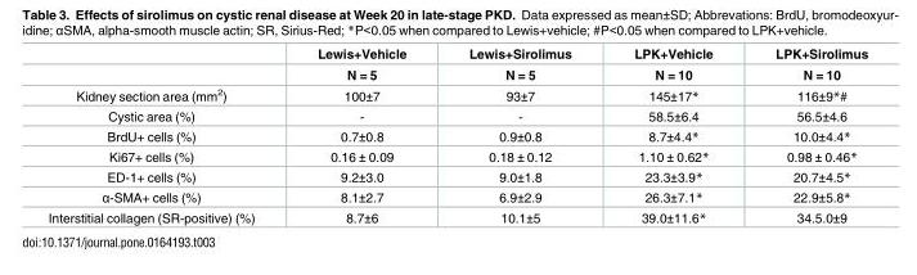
<table><thead><tr><td rowspan="2"></td><td rowspan="2">Lewis+Vehicle N = 5</td><td rowspan="2">Lewis+Sirolimus N = 5</td><td rowspan="2">LPK+Vehicle N = 10</td><td rowspan="2">LPK+Sirolimus N = 10</td></tr><tr></tr></thead><tbody><tr><td>Kidney section area (mm<sup>2</sup>)</td><td>100±7</td><td>93±7</td><td>145±17*</td><td>116±9*#</td></tr><tr><td>Cystic area (%)</td><td>-</td><td>-</td><td>58.5±6.4</td><td>56.5±4.6</td></tr><tr><td>BrdU+ cells (%)</td><td>0.7±0.8</td><td>0.9±0.8</td><td>8.7±4.4*</td><td>10.0±4.4*</td></tr><tr><td>Ki67+ cells (%)</td><td>0.16 ± 0.09</td><td>0.18 ± 0.12</td><td>1.10 ± 0.62*</td><td>0.98 ± 0.46*</td></tr><tr><td>ED-1+ cells (%)</td><td>9.2±3.0</td><td>9.0±1.8</td><td>23.3±3.9*</td><td>20.7±4.5*</td></tr><tr><td>α-SMA+ cells (%)</td><td>8.1±2.7</td><td>6.9±2.9</td><td>26.3±7.1*</td><td>22.9±5.8*</td></tr><tr><td>Interstitial collagen (SR-positive) (%)</td><td>8.7±6</td><td>10.1±5</td><td>39.0±11.6*</td><td>34.5.0±9</td></tr></tbody></table>